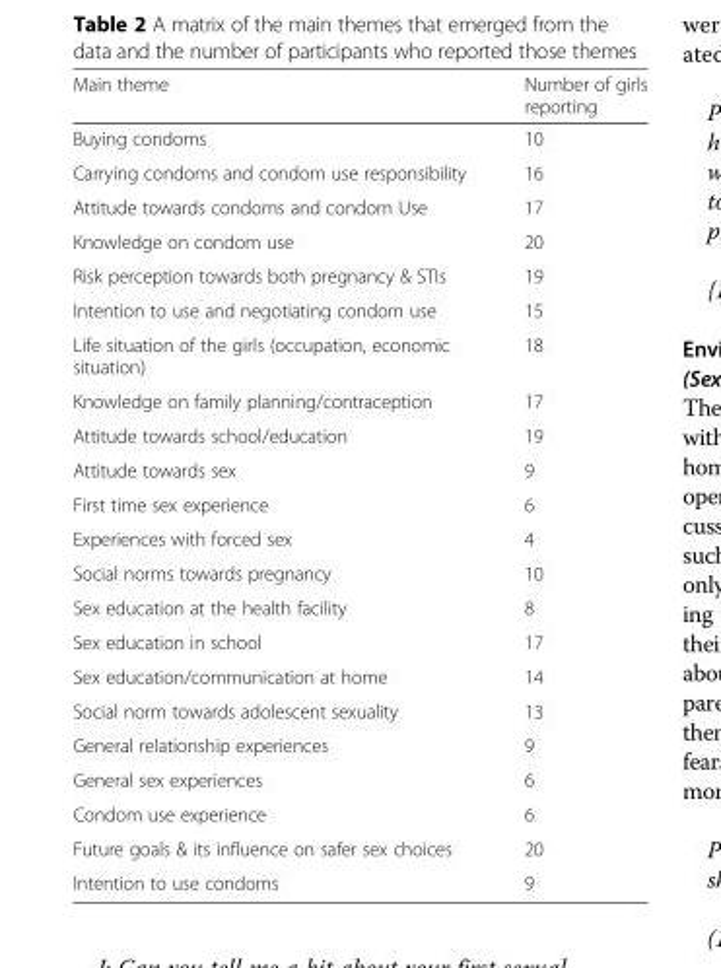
<table><thead><tr><td>Main theme</td><td>Number of girls reporting</td></tr></thead><tbody><tr><td>Buying condoms</td><td>10</td></tr><tr><td>Carrying condoms and condom use responsibility</td><td>16</td></tr><tr><td>Attitude towards condoms and condom Use</td><td>17</td></tr><tr><td>Knowledge on condom use</td><td>20</td></tr><tr><td>Risk perception towards both pregnancy &amp; STIs</td><td>19</td></tr><tr><td>Intention to use and negotiating condom use</td><td>15</td></tr><tr><td>Life situation of the girls (occupation, economic situation)</td><td>18</td></tr><tr><td>Knowledge on family planning/contraception</td><td>17</td></tr><tr><td>Attitude towards school/education</td><td>19</td></tr><tr><td>Attitude towards sex</td><td>9</td></tr><tr><td>First time sex experience</td><td>6</td></tr><tr><td>Experiences with forced sex</td><td>4</td></tr><tr><td>Social norms towards pregnancy</td><td>10</td></tr><tr><td>Sex education at the health facility</td><td>8</td></tr><tr><td>Sex education in school</td><td>17</td></tr><tr><td>Sex education/communication at home</td><td>14</td></tr><tr><td>Social norm towards adolescent sexuality</td><td>13</td></tr><tr><td>General relationship experiences</td><td>9</td></tr><tr><td>General sex experiences</td><td>6</td></tr><tr><td>Condom use experience</td><td>6</td></tr><tr><td>Future goals &amp; its influence on safer sex choices</td><td>20</td></tr><tr><td>Intention to use condoms</td><td>9</td></tr></tbody></table>